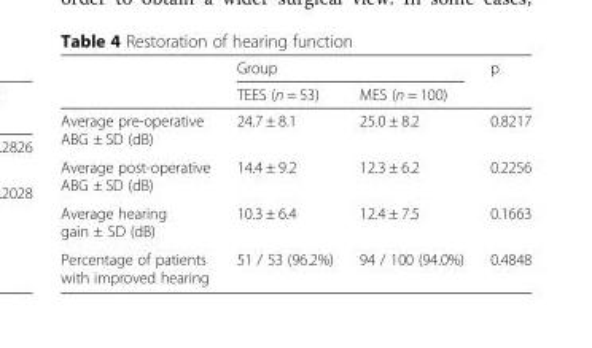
<table><thead><tr><td rowspan="2"></td><td colspan="2">Group</td><td rowspan="2">p</td></tr><tr><td>TEES (n = 53)</td><td>MES (n = 100)</td></tr></thead><tbody><tr><td>Average pre-operative ABG ± SD (dB)</td><td>24.7 ± 8.1</td><td>25.0 ± 8.2</td><td>0.8217</td></tr><tr><td>Average post-operative ABG ± SD (dB)</td><td>14.4 ± 9.2</td><td>12.3 ± 6.2</td><td>0.2256</td></tr><tr><td>Average hearing gain ± SD (dB)</td><td>10.3 ± 6.4</td><td>12.4 ± 7.5</td><td>0.1663</td></tr><tr><td>Percentage of patients with improved hearing</td><td>51 / 53 (96.2%)</td><td>94 / 100 (94.0%)</td><td>0.4848</td></tr></tbody></table>